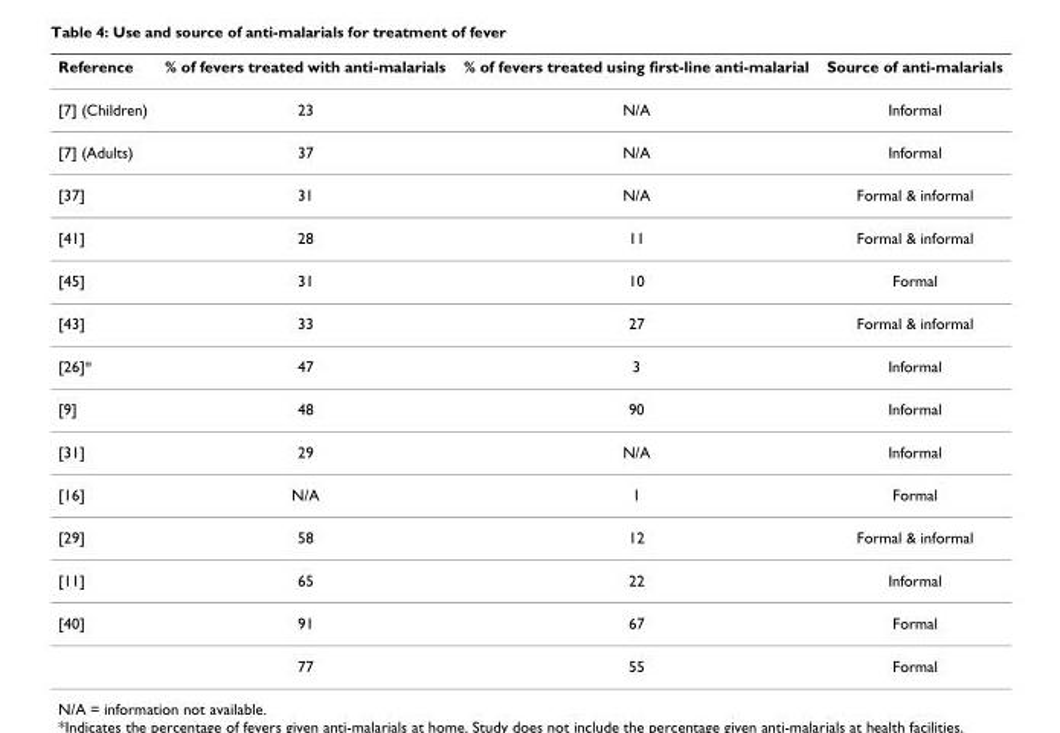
<table><thead><tr><td>Reference</td><td>% of fevers treated with anti-malarials</td><td>% of fevers treated using first-line anti-malarial</td><td>Source of anti-malarials</td></tr></thead><tbody><tr><td>[7] (Children)</td><td>23</td><td>N/A</td><td>Informal</td></tr><tr><td>[7] (Adults)</td><td>37</td><td>N/A</td><td>Informal</td></tr><tr><td>[37]</td><td>31</td><td>N/A</td><td>Formal &amp; informal</td></tr><tr><td>[41]</td><td>28</td><td>11</td><td>Formal &amp; informal</td></tr><tr><td>[45]</td><td>31</td><td>10</td><td>Formal</td></tr><tr><td>[43]</td><td>33</td><td>27</td><td>Formal &amp; informal</td></tr><tr><td>[26]*</td><td>47</td><td>3</td><td>Informal</td></tr><tr><td>[9]</td><td>48</td><td>90</td><td>Informal</td></tr><tr><td>[31]</td><td>29</td><td>N/A</td><td>Informal</td></tr><tr><td>[16]</td><td>N/A</td><td>1</td><td>Formal</td></tr><tr><td>[29]</td><td>58</td><td>12</td><td>Formal &amp; informal</td></tr><tr><td>[11]</td><td>65</td><td>22</td><td>Informal</td></tr><tr><td rowspan="2">[40]</td><td>91</td><td>67</td><td>Formal</td></tr><tr><td>77</td><td>55</td><td>Formal</td></tr></tbody></table>